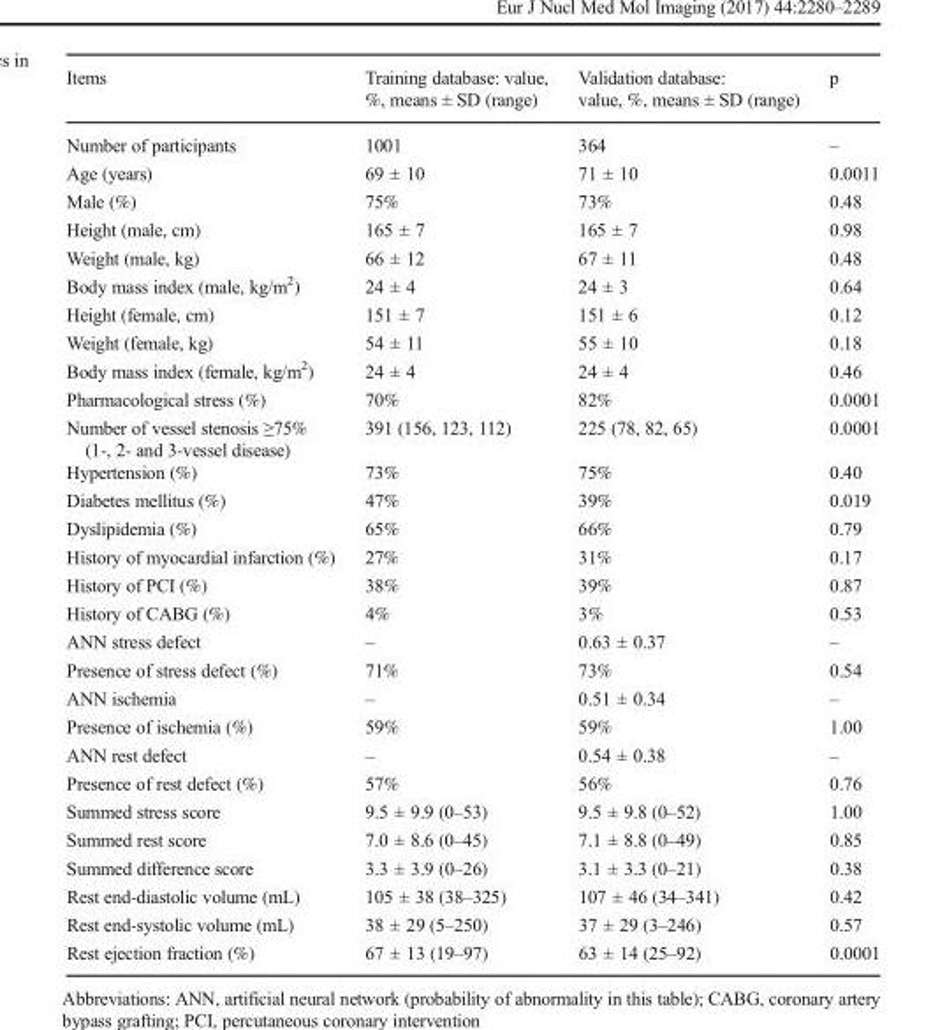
<table><thead><tr><td>Items</td><td>Training database: value, %, means ± SD (range)</td><td>Validation database: value, %, means ± SD (range)</td><td>p</td></tr></thead><tbody><tr><td>Number of participants</td><td>1001</td><td>364</td><td>–</td></tr><tr><td>Age (years)</td><td>69 ± 10</td><td>71 ± 10</td><td>0.0011</td></tr><tr><td>Male (%)</td><td>75%</td><td>73%</td><td>0.48</td></tr><tr><td>Height (male, cm)</td><td>165 ± 7</td><td>165 ± 7</td><td>0.98</td></tr><tr><td>Weight (male, kg)</td><td>66 ± 12</td><td>67 ± 11</td><td>0.48</td></tr><tr><td>Body mass index (male, kg/m<sup>2</sup>)</td><td>24 ± 4</td><td>24 ± 3</td><td>0.64</td></tr><tr><td>Height (female, cm)</td><td>151 ± 7</td><td>151 ± 6</td><td>0.12</td></tr><tr><td>Weight (female, kg)</td><td>54 ± 11</td><td>55 ± 10</td><td>0.18</td></tr><tr><td>Body mass index (female, kg/m<sup>2</sup>)</td><td>24 ± 4</td><td>24 ± 4</td><td>0.46</td></tr><tr><td>Pharmacological stress (%)</td><td>70%</td><td>82%</td><td>0.0001</td></tr><tr><td>Number of vessel stenosis ≥75% (1-, 2- and 3-vessel disease)</td><td>391 (156, 123, 112)</td><td>225 (78, 82, 65)</td><td>0.0001</td></tr><tr><td>Hypertension (%)</td><td>73%</td><td>75%</td><td>0.40</td></tr><tr><td>Diabetes mellitus (%)</td><td>47%</td><td>39%</td><td>0.019</td></tr><tr><td>Dyslipidemia (%)</td><td>65%</td><td>66%</td><td>0.79</td></tr><tr><td>History of myocardial infarction (%)</td><td>27%</td><td>31%</td><td>0.17</td></tr><tr><td>History of PCI (%)</td><td>38%</td><td>39%</td><td>0.87</td></tr><tr><td>History of CABG (%)</td><td>4%</td><td>3%</td><td>0.53</td></tr><tr><td>ANN stress defect</td><td>–</td><td>0.63 ± 0.37</td><td>–</td></tr><tr><td>Presence of stress defect (%)</td><td>71%</td><td>73%</td><td>0.54</td></tr><tr><td>ANN ischemia</td><td>–</td><td>0.51 ± 0.34</td><td>–</td></tr><tr><td>Presence of ischemia (%)</td><td>59%</td><td>59%</td><td>1.00</td></tr><tr><td>ANN rest defect</td><td>–</td><td>0.54 ± 0.38</td><td>–</td></tr><tr><td>Presence of rest defect (%)</td><td>57%</td><td>56%</td><td>0.76</td></tr><tr><td>Summed stress score</td><td>9.5 ± 9.9 (0–53)</td><td>9.5 ± 9.8 (0–52)</td><td>1.00</td></tr><tr><td>Summed rest score</td><td>7.0 ± 8.6 (0–45)</td><td>7.1 ± 8.8 (0–49)</td><td>0.85</td></tr><tr><td>Summed difference score</td><td>3.3 ± 3.9 (0–26)</td><td>3.1 ± 3.3 (0–21)</td><td>0.38</td></tr><tr><td>Rest end-diastolic volume (mL)</td><td>105 ± 38 (38–325)</td><td>107 ± 46 (34–341)</td><td>0.42</td></tr><tr><td>Rest end-systolic volume (mL)</td><td>38 ± 29 (5–250)</td><td>37 ± 29 (3–246)</td><td>0.57</td></tr><tr><td>Rest ejection fraction (%)</td><td>67 ± 13 (19–97)</td><td>63 ± 14 (25–92)</td><td>0.0001</td></tr></tbody></table>